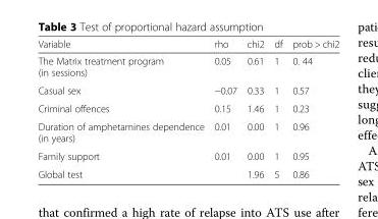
<table><thead><tr><td>Variable</td><td>rho</td><td>chi2</td><td>df</td><td>prob &gt; chi2</td></tr></thead><tbody><tr><td>The Matrix treatment program (in sessions)</td><td>0.05</td><td>0.61</td><td>1</td><td>0. 44</td></tr><tr><td>Casual sex</td><td>−0.07</td><td>0.33</td><td>1</td><td>0.57</td></tr><tr><td>Criminal offences</td><td>0.15</td><td>1.46</td><td>1</td><td>0.23</td></tr><tr><td>Duration of amphetamines dependence (in years)</td><td>0.01</td><td>0.00</td><td>1</td><td>0.96</td></tr><tr><td>Family support</td><td>0.01</td><td>0.00</td><td>1</td><td>0.95</td></tr><tr><td>Global test</td><td></td><td>1.96</td><td>5</td><td>0.86</td></tr></tbody></table>